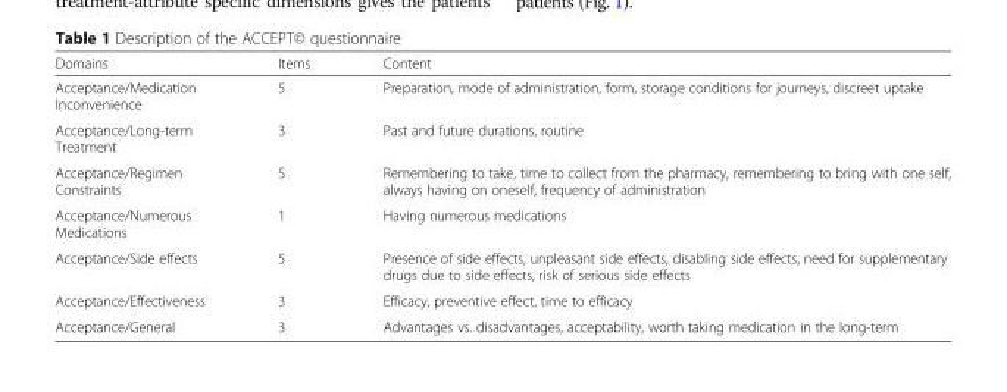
<table><thead><tr><td>Domains</td><td>Items</td><td>Content</td></tr></thead><tbody><tr><td>Acceptance/Medication Inconvenience</td><td>5</td><td>Preparation, mode of administration, form, storage conditions for journeys, discreet uptake</td></tr><tr><td>Acceptance/Long-term Treatment</td><td>3</td><td>Past and future durations, routine</td></tr><tr><td>Acceptance/Regimen Constraints</td><td>5</td><td>Remembering to take, time to collect from the pharmacy, remembering to bring with one self, always having on oneself, frequency of administration</td></tr><tr><td>Acceptance/Numerous Medications</td><td>1</td><td>Having numerous medications</td></tr><tr><td>Acceptance/Side effects</td><td>5</td><td>Presence of side effects, unpleasant side effects, disabling side effects, need for supplementary drugs due to side effects, risk of serious side effects</td></tr><tr><td>Acceptance/Effectiveness</td><td>3</td><td>Efficacy, preventive effect, time to efficacy</td></tr><tr><td>Acceptance/General</td><td>3</td><td>Advantages vs. disadvantages, acceptability, worth taking medication in the long-term</td></tr></tbody></table>